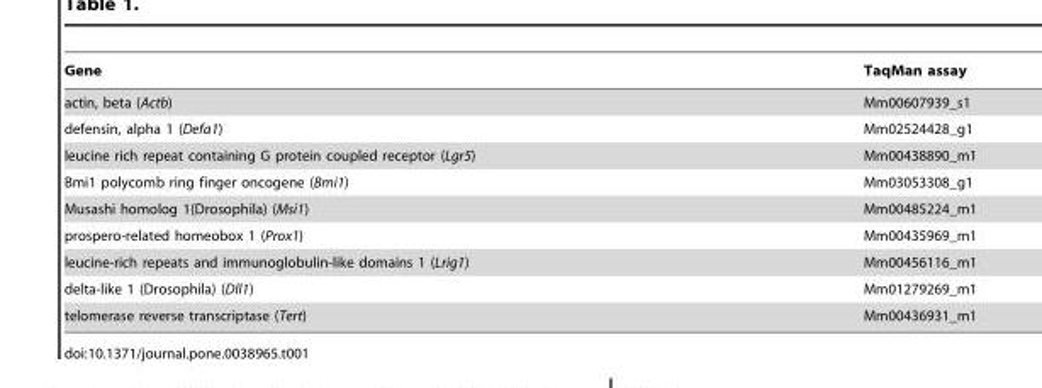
<table><thead><tr><td>Gene</td><td>TaqMan assay</td></tr></thead><tbody><tr><td>actin, beta (Actb)</td><td>Mm00607939_s1</td></tr><tr><td>defensin, alpha 1 (Defa1)</td><td>Mm02524428_g1</td></tr><tr><td>leucine rich repeat containing G protein coupled receptor (Lgr5)</td><td>Mm00438890_m1</td></tr><tr><td>Bmi1 polycomb ring finger oncogene (Bmi1)</td><td>Mm03053308_g1</td></tr><tr><td>Musashi homolog 1(Drosophila) (Msi1)</td><td>Mm00485224_m1</td></tr><tr><td>prospero-related homeobox 1 (Prox1)</td><td>Mm00435969_m1</td></tr><tr><td>leucine-rich repeats and immunoglobulin-like domains 1 (Lrig1)</td><td>Mm00456116_m1</td></tr><tr><td>delta-like 1 (Drosophila) (Dll1)</td><td>Mm01279269_m1</td></tr><tr><td>telomerase reverse transcriptase (Tert)</td><td>Mm00436931_m1</td></tr></tbody></table>